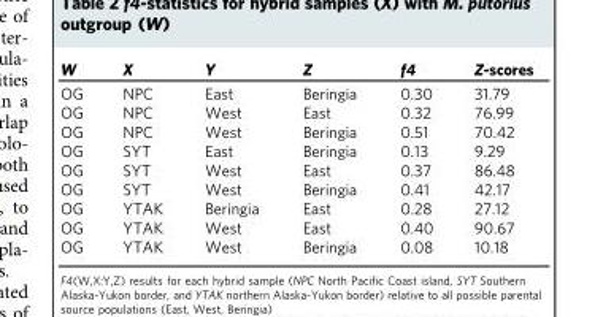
<table><thead><tr><td>W</td><td>X</td><td>Y</td><td>Z</td><td>f4</td><td>Z-scores</td></tr></thead><tbody><tr><td>OG</td><td>NPC</td><td>East</td><td>Beringia</td><td>0.30</td><td>31.79</td></tr><tr><td>OG</td><td>NPC</td><td>West</td><td>East</td><td>0.32</td><td>76.99</td></tr><tr><td>OG</td><td>NPC</td><td>West</td><td>Beringia</td><td>0.51</td><td>70.42</td></tr><tr><td>OG</td><td>SYT</td><td>East</td><td>Beringia</td><td>0.13</td><td>9.29</td></tr><tr><td>OG</td><td>SYT</td><td>West</td><td>East</td><td>0.37</td><td>86.48</td></tr><tr><td>OG</td><td>SYT</td><td>West</td><td>Beringia</td><td>0.41</td><td>42.17</td></tr><tr><td>OG</td><td>YTAK</td><td>Beringia</td><td>East</td><td>0.28</td><td>27.12</td></tr><tr><td>OG</td><td>YTAK</td><td>West</td><td>East</td><td>0.40</td><td>90.67</td></tr><tr><td>OG</td><td>YTAK</td><td>West</td><td>Beringia</td><td>0.08</td><td>10.18</td></tr></tbody></table>